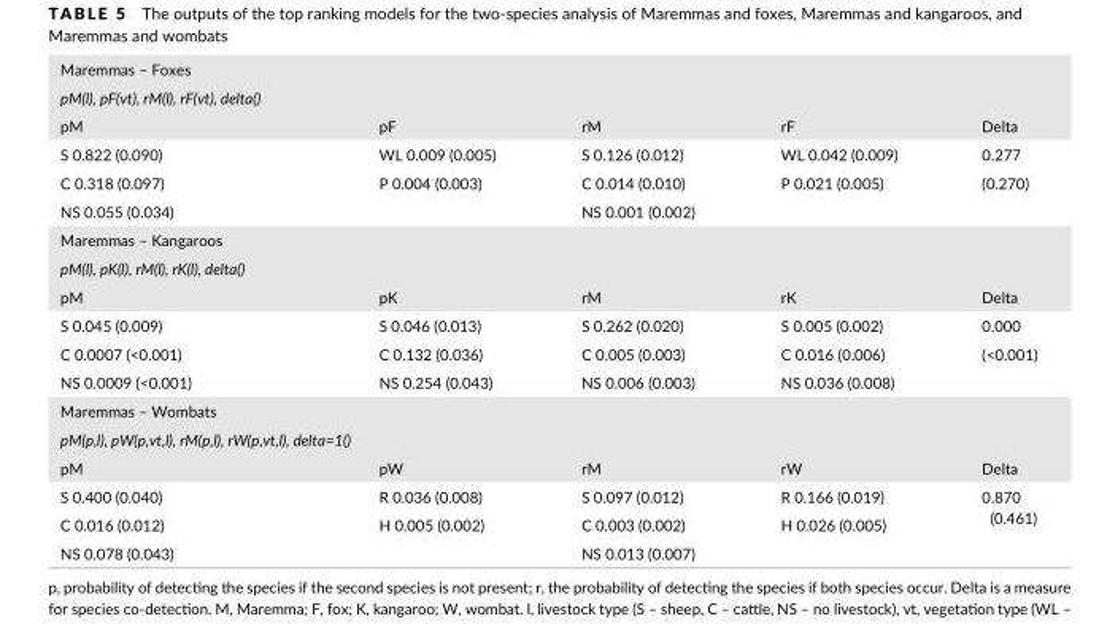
<table><tbody><tr><td colspan="5">Maremmas – Foxes</td></tr><tr><td colspan="5">pM(l), pF(vt), rM(l), rF(vt), delta()</td></tr><tr><td>pM</td><td>pF</td><td>rM</td><td>rF</td><td>Delta</td></tr><tr><td>S 0.822 (0.090)</td><td>WL 0.009 (0.005)</td><td>S 0.126 (0.012)</td><td>WL 0.042 (0.009)</td><td>0.277</td></tr><tr><td>C 0.318 (0.097)</td><td>P 0.004 (0.003)</td><td>C 0.014 (0.010)</td><td>P 0.021 (0.005)</td><td>(0.270)</td></tr><tr><td>NS 0.055 (0.034)</td><td></td><td>NS 0.001 (0.002)</td><td></td><td></td></tr><tr><td colspan="5">Maremmas – Kangaroos</td></tr><tr><td colspan="5">pM(l), pK(l), rM(l), rK(l), delta()</td></tr><tr><td>pM</td><td>pK</td><td>rM</td><td>rK</td><td>Delta</td></tr><tr><td>S 0.045 (0.009)</td><td>S 0.046 (0.013)</td><td>S 0.262 (0.020)</td><td>S 0.005 (0.002)</td><td>0.000</td></tr><tr><td>C 0.0007 (&lt;0.001)</td><td>C 0.132 (0.036)</td><td>C 0.005 (0.003)</td><td>C 0.016 (0.006)</td><td>(&lt;0.001)</td></tr><tr><td>NS 0.0009 (&lt;0.001)</td><td>NS 0.254 (0.043)</td><td>NS 0.006 (0.003)</td><td>NS 0.036 (0.008)</td><td></td></tr><tr><td colspan="5">Maremmas – Wombats</td></tr><tr><td colspan="5">pM(p,l), pW(p,vt,l), rM(p,l), rW(p,vt,l), delta=1()</td></tr><tr><td>pM</td><td>pW</td><td>rM</td><td>rW</td><td>Delta</td></tr><tr><td>S 0.400 (0.040)</td><td>R 0.036 (0.008)</td><td>S 0.097 (0.012)</td><td>R 0.166 (0.019)</td><td rowspan="2">0.870 (0.461)</td></tr><tr><td>C 0.016 (0.012)</td><td>H 0.005 (0.002)</td><td>C 0.003 (0.002)</td><td>H 0.026 (0.005)</td></tr><tr><td>NS 0.078 (0.043)</td><td></td><td>NS 0.013 (0.007)</td><td></td><td></td></tr></tbody></table>